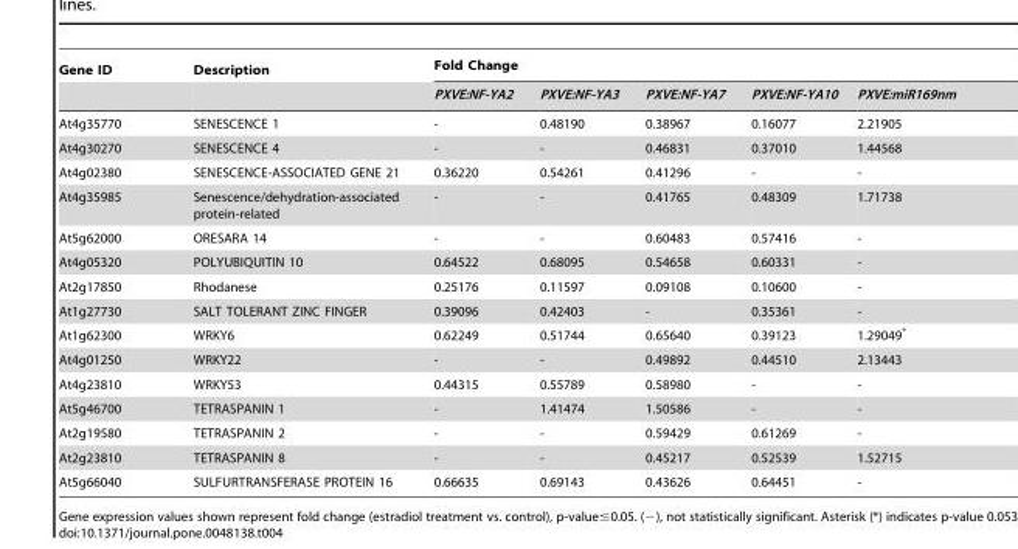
<table><thead><tr><td rowspan="2">Gene ID</td><td rowspan="2">Description</td><td colspan="5">Fold Change</td></tr><tr><td>PXVE:NF-YA2</td><td>PXVE:NF-YA3</td><td>PXVE:NF-YA7</td><td>PXVE:NF-YA10</td><td>PXVE:miR169nm</td></tr></thead><tbody><tr><td>At4g35770</td><td>SENESCENCE 1</td><td>-</td><td>0.48190</td><td>0.38967</td><td>0.16077</td><td>2.21905</td></tr><tr><td>At4g30270</td><td>SENESCENCE 4</td><td>-</td><td>-</td><td>0.46831</td><td>0.37010</td><td>1.44568</td></tr><tr><td>At4g02380</td><td>SENESCENCE-ASSOCIATED GENE 21</td><td>0.36220</td><td>0.54261</td><td>0.41296</td><td>-</td><td>-</td></tr><tr><td>At4g35985</td><td>Senescence/dehydration-associated protein-related</td><td>-</td><td>-</td><td>0.41765</td><td>0.48309</td><td>1.71738</td></tr><tr><td>At5g62000</td><td>ORESARA 14</td><td>-</td><td>-</td><td>0.60483</td><td>0.57416</td><td>-</td></tr><tr><td>At4g05320</td><td>POLYUBIQUITIN 10</td><td>0.64522</td><td>0.68095</td><td>0.54658</td><td>0.60331</td><td>-</td></tr><tr><td>At2g17850</td><td>Rhodanese</td><td>0.25176</td><td>0.11597</td><td>0.09108</td><td>0.10600</td><td>-</td></tr><tr><td>At1g27730</td><td>SALT TOLERANT ZINC FINGER</td><td>0.39096</td><td>0.42403</td><td>-</td><td>0.35361</td><td>-</td></tr><tr><td>At1g62300</td><td>WRKY6</td><td>0.62249</td><td>0.51744</td><td>0.65640</td><td>0.39123</td><td>1.29049*</td></tr><tr><td>At4g01250</td><td>WRKY22</td><td>-</td><td>-</td><td>0.49892</td><td>0.44510</td><td>2.13443</td></tr><tr><td>At4g23810</td><td>WRKY53</td><td>0.44315</td><td>0.55789</td><td>0.58980</td><td>-</td><td>-</td></tr><tr><td>At5g46700</td><td>TETRASPANIN 1</td><td>-</td><td>1.41474</td><td>1.50586</td><td>-</td><td>-</td></tr><tr><td>At2g19580</td><td>TETRASPANIN 2</td><td>-</td><td>-</td><td>0.59429</td><td>0.61269</td><td>-</td></tr><tr><td>At2g23810</td><td>TETRASPANIN 8</td><td>-</td><td>-</td><td>0.45217</td><td>0.52539</td><td>1.52715</td></tr><tr><td>At5g66040</td><td>SULFURTRANSFERASE PROTEIN 16</td><td>0.66635</td><td>0.69143</td><td>0.43626</td><td>0.64451</td><td>-</td></tr></tbody></table>